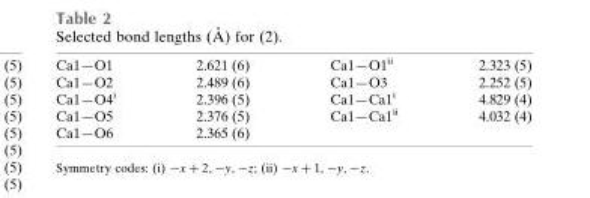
<table><tbody><tr><td>Ca1—O1</td><td>2.621 (6)</td><td>Ca1—O1<sup>ii</sup></td><td>2.323 (5)</td></tr><tr><td>Ca1—O2</td><td>2.489 (6)</td><td>Ca1—O3</td><td>2.252 (5)</td></tr><tr><td>Ca1—O4<sup>i</sup></td><td>2.396 (5)</td><td>Ca1—Ca1<sup>i</sup></td><td>4.829 (4)</td></tr><tr><td>Ca1—O5</td><td>2.376 (5)</td><td>Ca1—Ca1<sup>ii</sup></td><td>4.032 (4)</td></tr><tr><td>Ca1—O6</td><td>2.365 (6)</td><td></td><td></td></tr></tbody></table>